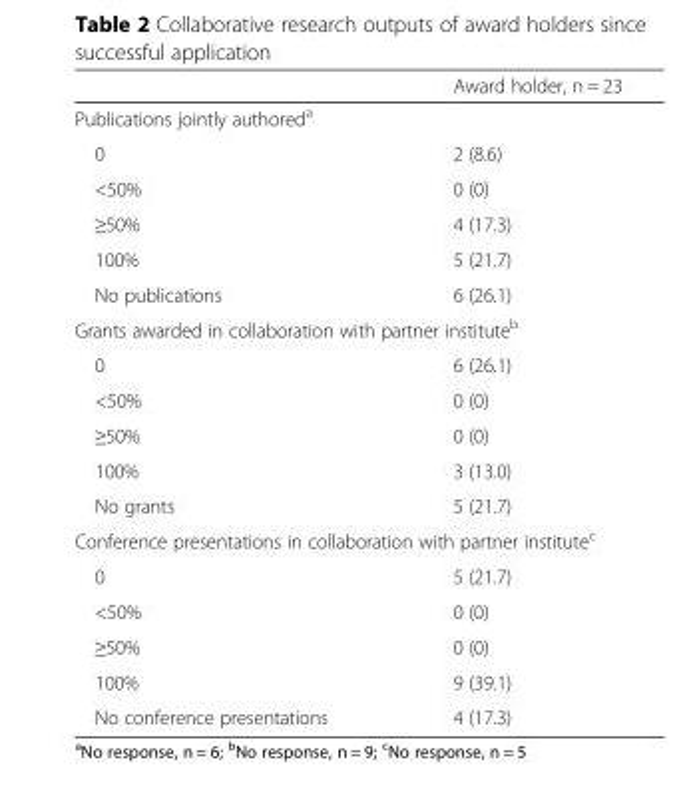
<table><thead><tr><td></td><td>Award holder, n = 23</td></tr></thead><tbody><tr><td colspan="2">Publications jointly authored<sup>a</sup></td></tr><tr><td>0</td><td>2 (8.6)</td></tr><tr><td>&lt;50%</td><td>0 (0)</td></tr><tr><td>≥50%</td><td>4 (17.3)</td></tr><tr><td>100%</td><td>5 (21.7)</td></tr><tr><td>No publications</td><td>6 (26.1)</td></tr><tr><td colspan="2">Grants awarded in collaboration with partner institute<sup>b</sup></td></tr><tr><td>0</td><td>6 (26.1)</td></tr><tr><td>&lt;50%</td><td>0 (0)</td></tr><tr><td>≥50%</td><td>0 (0)</td></tr><tr><td>100%</td><td>3 (13.0)</td></tr><tr><td>No grants</td><td>5 (21.7)</td></tr><tr><td colspan="2">Conference presentations in collaboration with partner institute<sup>c</sup></td></tr><tr><td>0</td><td>5 (21.7)</td></tr><tr><td>&lt;50%</td><td>0 (0)</td></tr><tr><td>≥50%</td><td>0 (0)</td></tr><tr><td>100%</td><td>9 (39.1)</td></tr><tr><td>No conference presentations</td><td>4 (17.3)</td></tr></tbody></table>